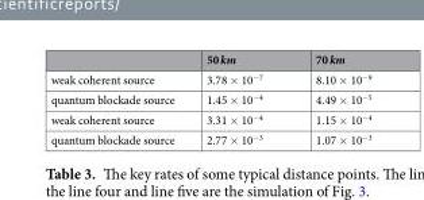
<table><thead><tr><td></td><td>50 km</td><td>70 km</td></tr></thead><tbody><tr><td>weak coherent source</td><td>3.78 × 10<sup>−7</sup></td><td>8.10 × 10<sup>−9</sup></td></tr><tr><td>quantum blockade source</td><td>1.45 × 10<sup>−4</sup></td><td>4.49 × 10<sup>−5</sup></td></tr><tr><td>weak coherent source</td><td>3.31 × 10<sup>−4</sup></td><td>1.15 × 10<sup>−4</sup></td></tr><tr><td>quantum blockade source</td><td>2.77 × 10<sup>−3</sup></td><td>1.07 × 10<sup>−3</sup></td></tr></tbody></table>